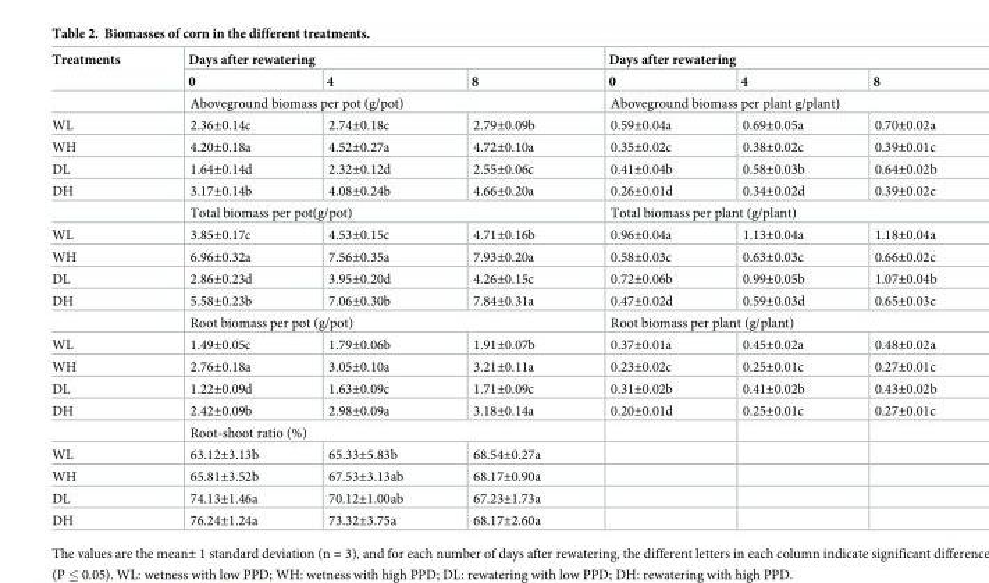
<table><thead><tr><td rowspan="2">Treatments</td><td colspan="3">Days after rewatering</td><td colspan="3">Days after rewatering</td></tr><tr><td>0</td><td>4</td><td>8</td><td>0</td><td>4</td><td>8</td></tr></thead><tbody><tr><td></td><td colspan="3">Aboveground biomass per pot (g/pot)</td><td colspan="3">Aboveground biomass per plant g/plant)</td></tr><tr><td>WL</td><td>2.36±0.14c</td><td>2.74±0.18c</td><td>2.79±0.09b</td><td>0.59±0.04a</td><td>0.69±0.05a</td><td>0.70±0.02a</td></tr><tr><td>WH</td><td>4.20±0.18a</td><td>4.52±0.27a</td><td>4.72±0.10a</td><td>0.35±0.02c</td><td>0.38±0.02c</td><td>0.39±0.01c</td></tr><tr><td>DL</td><td>1.64±0.14d</td><td>2.32±0.12d</td><td>2.55±0.06c</td><td>0.41±0.04b</td><td>0.58±0.03b</td><td>0.64±0.02b</td></tr><tr><td rowspan="2">DH</td><td>3.17±0.14b</td><td>4.08±0.24b</td><td>4.66±0.20a</td><td>0.26±0.01d</td><td>0.34±0.02d</td><td>0.39±0.02c</td></tr><tr><td colspan="3">Total biomass per pot(g/pot)</td><td colspan="3">Total biomass per plant (g/plant)</td></tr><tr><td>WL</td><td>3.85±0.17c</td><td>4.53±0.15c</td><td>4.71±0.16b</td><td>0.96±0.04a</td><td>1.13±0.04a</td><td>1.18±0.04a</td></tr><tr><td>WH</td><td>6.96±0.32a</td><td>7.56±0.35a</td><td>7.93±0.20a</td><td>0.58±0.03c</td><td>0.63±0.03c</td><td>0.66±0.02c</td></tr><tr><td>DL</td><td>2.86±0.23d</td><td>3.95±0.20d</td><td>4.26±0.15c</td><td>0.72±0.06b</td><td>0.99±0.05b</td><td>1.07±0.04b</td></tr><tr><td rowspan="2">DH</td><td>5.58±0.23b</td><td>7.06±0.30b</td><td>7.84±0.31a</td><td>0.47±0.02d</td><td>0.59±0.03d</td><td>0.65±0.03c</td></tr><tr><td colspan="3">Root biomass per pot (g/pot)</td><td colspan="3">Root biomass per plant (g/plant)</td></tr><tr><td>WL</td><td>1.49±0.05c</td><td>1.79±0.06b</td><td>1.91±0.07b</td><td>0.37±0.01a</td><td>0.45±0.02a</td><td>0.48±0.02a</td></tr><tr><td>WH</td><td>2.76±0.18a</td><td>3.05±0.10a</td><td>3.21±0.11a</td><td>0.23±0.02c</td><td>0.25±0.01c</td><td>0.27±0.01c</td></tr><tr><td>DL</td><td>1.22±0.09d</td><td>1.63±0.09c</td><td>1.71±0.09c</td><td>0.31±0.02b</td><td>0.41±0.02b</td><td>0.43±0.02b</td></tr><tr><td rowspan="2">DH</td><td>2.42±0.09b</td><td>2.98±0.09a</td><td>3.18±0.14a</td><td>0.20±0.01d</td><td>0.25±0.01c</td><td>0.27±0.01c</td></tr><tr><td colspan="3">Root-shoot ratio (%)</td><td></td><td></td><td></td></tr><tr><td>WL</td><td>63.12±3.13b</td><td>65.33±5.83b</td><td>68.54±0.27a</td><td></td><td></td><td></td></tr><tr><td>WH</td><td>65.81±3.52b</td><td>67.53±3.13ab</td><td>68.17±0.90a</td><td></td><td></td><td></td></tr><tr><td>DL</td><td>74.13±1.46a</td><td>70.12±1.00ab</td><td>67.23±1.73a</td><td></td><td></td><td></td></tr><tr><td>DH</td><td>76.24±1.24a</td><td>73.32±3.75a</td><td>68.17±2.60a</td><td></td><td></td><td></td></tr></tbody></table>